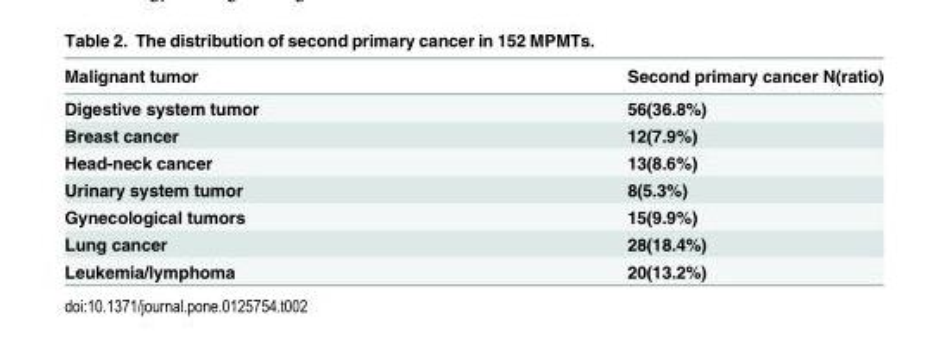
<table><thead><tr><td>Malignant tumor</td><td>Second primary cancer N(ratio)</td></tr></thead><tbody><tr><td>Digestive system tumor</td><td>56(36.8%)</td></tr><tr><td>Breast cancer</td><td>12(7.9%)</td></tr><tr><td>Head-neck cancer</td><td>13(8.6%)</td></tr><tr><td>Urinary system tumor</td><td>8(5.3%)</td></tr><tr><td>Gynecological tumors</td><td>15(9.9%)</td></tr><tr><td>Lung cancer</td><td>28(18.4%)</td></tr><tr><td>Leukemia/lymphoma</td><td>20(13.2%)</td></tr></tbody></table>